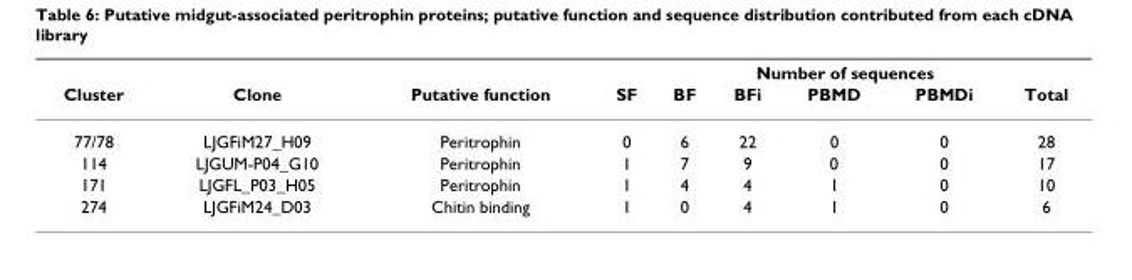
<table><thead><tr><td rowspan="2">Cluster</td><td rowspan="2">Clone</td><td rowspan="2">Putative function</td><td colspan="6">Number of sequences</td></tr><tr><td>SF</td><td>BF</td><td>BFi</td><td>PBMD</td><td>PBMDi</td><td>Total</td></tr></thead><tbody><tr><td>77/78</td><td>LJGFiM27_H09</td><td>Peritrophin</td><td>0</td><td>6</td><td>22</td><td>0</td><td>0</td><td>28</td></tr><tr><td>114</td><td>LJGUM-P04_G10</td><td>Peritrophin</td><td>1</td><td>7</td><td>9</td><td>0</td><td>0</td><td>17</td></tr><tr><td>171</td><td>LJGFL_P03_H05</td><td>Peritrophin</td><td>1</td><td>4</td><td>4</td><td>1</td><td>0</td><td>10</td></tr><tr><td>274</td><td>LJGFiM24_D03</td><td>Chitin binding</td><td>1</td><td>0</td><td>4</td><td>1</td><td>0</td><td>6</td></tr></tbody></table>